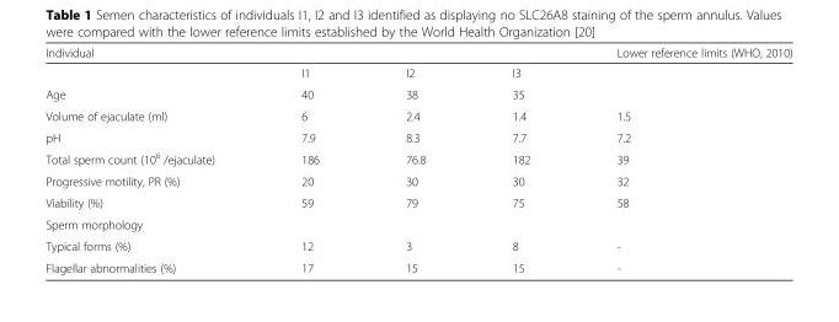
<table><thead><tr><td colspan="4">Individual</td><td rowspan="2">Lower reference limits (WHO, 2010)</td></tr><tr><td></td><td>I1</td><td>I2</td><td>I3</td></tr></thead><tbody><tr><td>Age</td><td>40</td><td>38</td><td>35</td><td></td></tr><tr><td>Volume of ejaculate (ml)</td><td>6</td><td>2.4</td><td>1.4</td><td>1.5</td></tr><tr><td>pH</td><td>7.9</td><td>8.3</td><td>7.7</td><td>7.2</td></tr><tr><td>Total sperm count (10<sup>6</sup> /ejaculate)</td><td>186</td><td>76.8</td><td>182</td><td>39</td></tr><tr><td>Progressive motility, PR (%)</td><td>20</td><td>30</td><td>30</td><td>32</td></tr><tr><td>Viability (%)</td><td>59</td><td>79</td><td>75</td><td>58</td></tr><tr><td colspan="5">Sperm morphology</td></tr><tr><td>Typical forms (%)</td><td>12</td><td>3</td><td>8</td><td>-</td></tr><tr><td>Flagellar abnormalities (%)</td><td>17</td><td>15</td><td>15</td><td>-</td></tr></tbody></table>